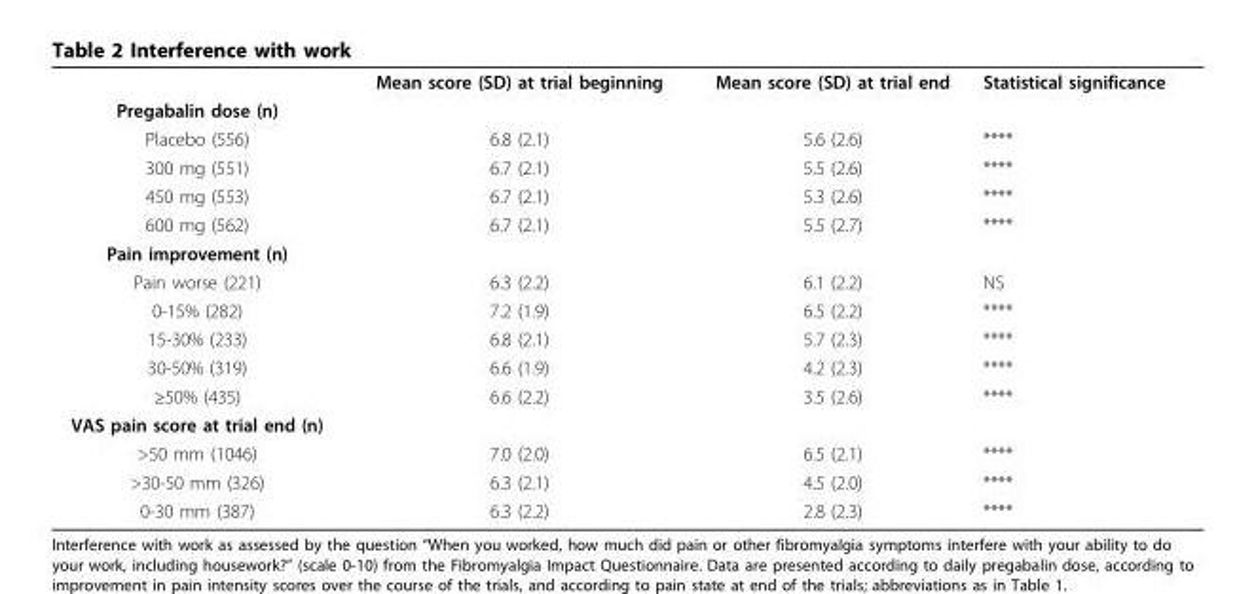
<table><thead><tr><td></td><td>Mean score (SD) at trial beginning</td><td>Mean score (SD) at trial end</td><td>Statistical significance</td></tr></thead><tbody><tr><td colspan="4">Pregabalin dose (n)</td></tr><tr><td>Placebo (556)</td><td>6.8 (2.1)</td><td>5.6 (2.6)</td><td>****</td></tr><tr><td>300 mg (551)</td><td>6.7 (2.1)</td><td>5.5 (2.6)</td><td>****</td></tr><tr><td>450 mg (553)</td><td>6.7 (2.1)</td><td>5.3 (2.6)</td><td>****</td></tr><tr><td>600 mg (562)</td><td>6.7 (2.1)</td><td>5.5 (2.7)</td><td>****</td></tr><tr><td colspan="4">Pain improvement (n)</td></tr><tr><td>Pain worse (221)</td><td>6.3 (2.2)</td><td>6.1 (2.2)</td><td>NS</td></tr><tr><td>0-15% (282)</td><td>7.2 (1.9)</td><td>6.5 (2.2)</td><td>****</td></tr><tr><td>15-30% (233)</td><td>6.8 (2.1)</td><td>5.7 (2.3)</td><td>****</td></tr><tr><td>30-50% (319)</td><td>6.6 (1.9)</td><td>4.2 (2.3)</td><td>****</td></tr><tr><td>≥50% (435)</td><td>6.6 (2.2)</td><td>3.5 (2.6)</td><td>****</td></tr><tr><td colspan="4">VAS pain score at trial end (n)</td></tr><tr><td>&gt;50 mm (1046)</td><td>7.0 (2.0)</td><td>6.5 (2.1)</td><td>****</td></tr><tr><td>&gt;30-50 mm (326)</td><td>6.3 (2.1)</td><td>4.5 (2.0)</td><td>****</td></tr><tr><td>0-30 mm (387)</td><td>6.3 (2.2)</td><td>2.8 (2.3)</td><td>****</td></tr></tbody></table>